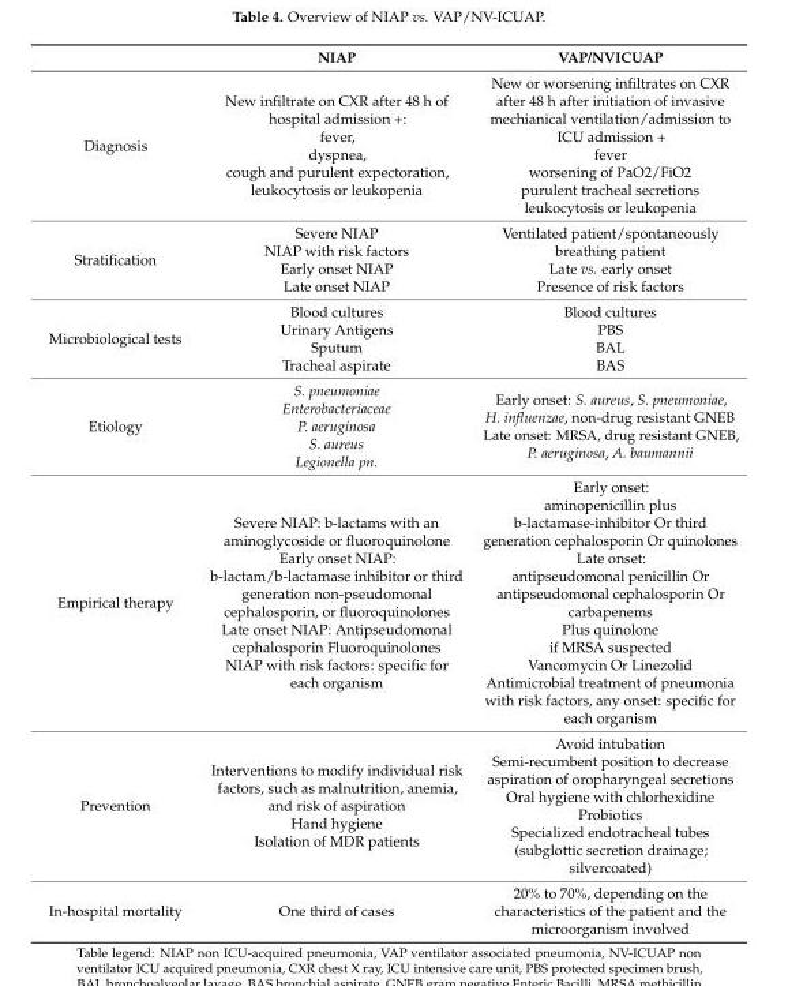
<table><thead><tr><td></td><td>NIAP</td><td>VAP/NVICUAP</td></tr></thead><tbody><tr><td>Diagnosis</td><td>New infiltrate on CXR after 48 h of hospital admission +: fever, dyspnea, cough and purulent expectoration, leukocytosis or leukopenia</td><td>New or worsening infiltrates on CXR after 48 h after initiation of invasive mechianical ventilation/admission to ICU admission + fever worsening of PaO2/FiO2 purulent tracheal secretions leukocytosis or leukopenia</td></tr><tr><td>Stratification</td><td>Severe NIAP NIAP with risk factors Early onset NIAP Late onset NIAP</td><td>Ventilated patient/spontaneously breathing patient Late vs. early onset Presence of risk factors</td></tr><tr><td>Microbiological tests</td><td>Blood cultures Urinary Antigens Sputum Tracheal aspirate</td><td>Blood cultures PBS BAL BAS</td></tr><tr><td>Etiology</td><td>S. pneumoniae Enterobacteriaceae P. aeruginosa S. aureus Legionella pn.</td><td>Early onset: S. aureus, S. pneumoniae, H. influenzae, non-drug resistant GNEB Late onset: MRSA, drug resistant GNEB, P. aeruginosa, A. baumannii</td></tr><tr><td>Empirical therapy</td><td>Severe NIAP: b-lactams with an aminoglycoside or fluoroquinolone Early onset NIAP: b-lactam/b-lactamase inhibitor or third generation non-pseudomonal cephalosporin, or fluoroquinolones Late onset NIAP: Antipseudomonal cephalosporin Fluoroquinolones NIAP with risk factors: specific for each organism</td><td>Early onset: aminopenicillin plus b-lactamase-inhibitor Or third generation cephalosporin Or quinolones Late onset: antipseudomonal penicillin Or antipseudomonal cephalosporin Or carbapenems Plus quinolone if MRSA suspected Vancomycin Or Linezolid Antimicrobial treatment of pneumonia with risk factors, any onset: specific for each organism</td></tr><tr><td>Prevention</td><td>Interventions to modify individual risk factors, such as malnutrition, anemia, and risk of aspiration Hand hygiene Isolation of MDR patients</td><td>Avoid intubation Semi-recumbent position to decrease aspiration of oropharyngeal secretions Oral hygiene with chlorhexidine Probiotics Specialized endotracheal tubes (subglottic secretion drainage; silvercoated)</td></tr><tr><td>In-hospital mortality</td><td>One third of cases</td><td>20% to 70%, depending on the characteristics of the patient and the microorganism involved</td></tr></tbody></table>